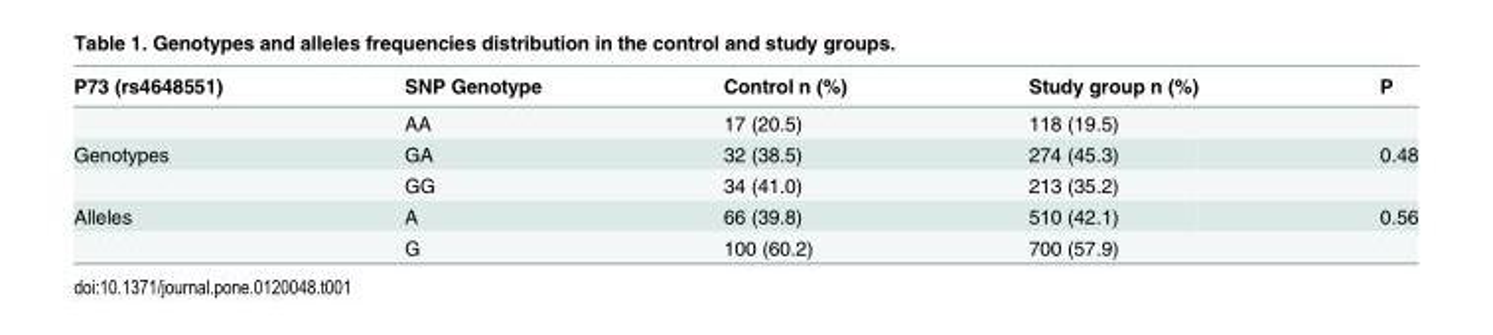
<table><thead><tr><td>P73 (rs4648551)</td><td>SNP Genotype</td><td>Control n (%)</td><td>Study group n (%)</td><td>P</td></tr></thead><tbody><tr><td></td><td>AA</td><td>17 (20.5)</td><td>118 (19.5)</td><td></td></tr><tr><td rowspan="2">Genotypes</td><td>GA</td><td>32 (38.5)</td><td>274 (45.3)</td><td>0.48</td></tr><tr><td>GG</td><td>34 (41.0)</td><td>213 (35.2)</td><td></td></tr><tr><td rowspan="2">Alleles</td><td>A</td><td>66 (39.8)</td><td>510 (42.1)</td><td>0.56</td></tr><tr><td>G</td><td>100 (60.2)</td><td>700 (57.9)</td><td></td></tr></tbody></table>